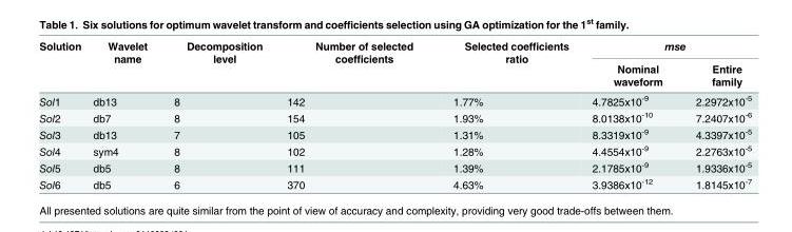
<table><thead><tr><td rowspan="2">Solution</td><td rowspan="2">Wavelet name</td><td rowspan="2">Decomposition level</td><td rowspan="2">Number of selected coefficients</td><td rowspan="2">Selected coefficients ratio</td><td colspan="2">mse</td></tr><tr><td>Nominal waveform</td><td>Entire family</td></tr></thead><tbody><tr><td>Sol1</td><td>db13</td><td>8</td><td>142</td><td>1.77%</td><td>4.7825x10<sup>-9</sup></td><td>2.2972x10<sup>-5</sup></td></tr><tr><td>Sol2</td><td>db7</td><td>8</td><td>154</td><td>1.93%</td><td>8.0138x10<sup>-10</sup></td><td>7.2407x10<sup>-6</sup></td></tr><tr><td>Sol3</td><td>db13</td><td>7</td><td>105</td><td>1.31%</td><td>8.3319x10<sup>-9</sup></td><td>4.3397x10<sup>-5</sup></td></tr><tr><td>Sol4</td><td>sym4</td><td>8</td><td>102</td><td>1.28%</td><td>4.4554x10<sup>-9</sup></td><td>2.2763x10<sup>-5</sup></td></tr><tr><td>Sol5</td><td>db5</td><td>8</td><td>111</td><td>1.39%</td><td>2.1785x10<sup>-9</sup></td><td>1.9336x10<sup>-5</sup></td></tr><tr><td>Sol6</td><td>db5</td><td>6</td><td>370</td><td>4.63%</td><td>3.9386x10<sup>-12</sup></td><td>1.8145x10<sup>-7</sup></td></tr></tbody></table>